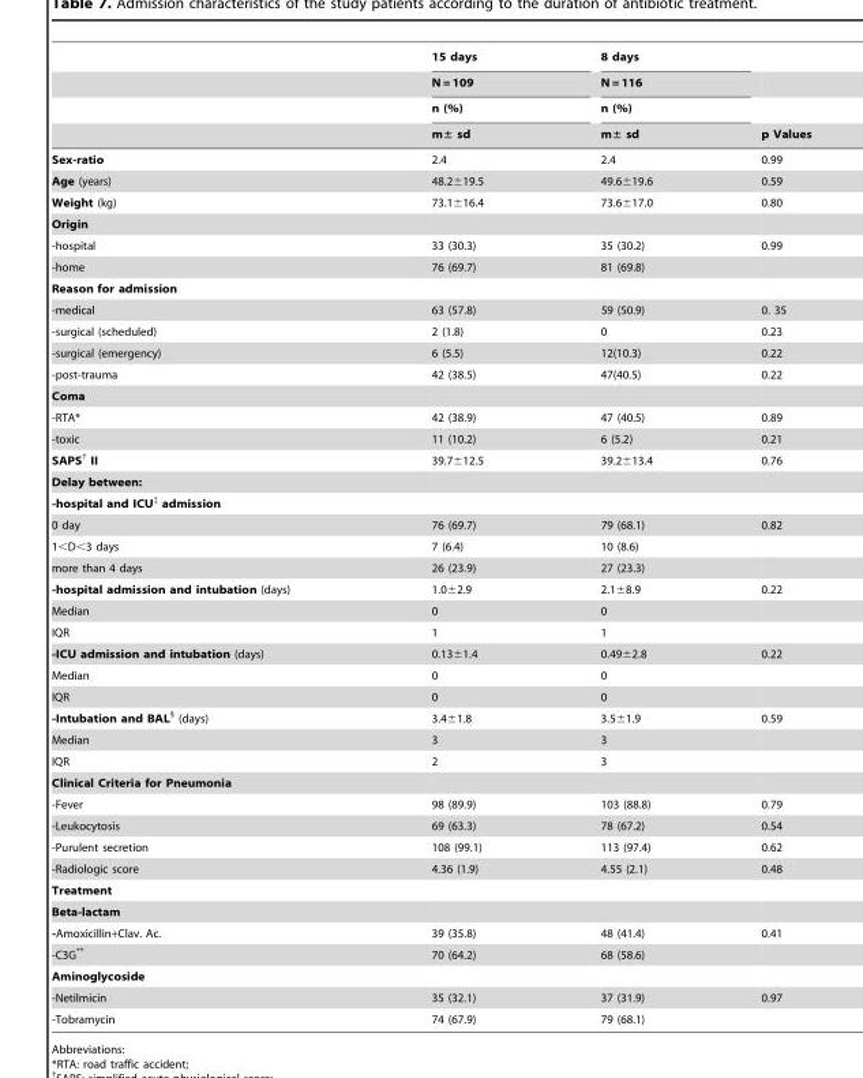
<table><thead><tr><td rowspan="4"></td><td rowspan="4">15 days N = 109 n (%) m± sd</td><td rowspan="4">8 days N = 116 n (%) m± sd</td><td rowspan="4">p Values</td></tr><tr></tr><tr></tr><tr></tr></thead><tbody><tr><td>Sex-ratio</td><td>2.4</td><td>2.4</td><td>0.99</td></tr><tr><td>Age (years)</td><td>48.2±19.5</td><td>49.6±19.6</td><td>0.59</td></tr><tr><td>Weight (kg)</td><td>73.1±16.4</td><td>73.6±17.0</td><td>0.80</td></tr><tr><td colspan="4">Origin</td></tr><tr><td>-hospital</td><td>33 (30.3)</td><td>35 (30.2)</td><td>0.99</td></tr><tr><td>-home</td><td>76 (69.7)</td><td>81 (69.8)</td><td></td></tr><tr><td colspan="4">Reason for admission</td></tr><tr><td>-medical</td><td>63 (57.8)</td><td>59 (50.9)</td><td>0. 35</td></tr><tr><td>-surgical (scheduled)</td><td>2 (1.8)</td><td>0</td><td>0.23</td></tr><tr><td>-surgical (emergency)</td><td>6 (5.5)</td><td>12(10.3)</td><td>0.22</td></tr><tr><td>-post-trauma</td><td>42 (38.5)</td><td>47(40.5)</td><td>0.22</td></tr><tr><td colspan="4">Coma</td></tr><tr><td>-RTA*</td><td>42 (38.9)</td><td>47 (40.5)</td><td>0.89</td></tr><tr><td>-toxic</td><td>11 (10.2)</td><td>6 (5.2)</td><td>0.21</td></tr><tr><td>SAPS† II</td><td>39.7±12.5</td><td>39.2±13.4</td><td>0.76</td></tr><tr><td colspan="4">Delay between:</td></tr><tr><td colspan="4">-hospital and ICU‡ admission</td></tr><tr><td>0 day</td><td>76 (69.7)</td><td>79 (68.1)</td><td>0.82</td></tr><tr><td>1&lt;D&lt;3 days</td><td>7 (6.4)</td><td>10 (8.6)</td><td></td></tr><tr><td>more than 4 days</td><td>26 (23.9)</td><td>27 (23.3)</td><td></td></tr><tr><td>-hospital admission and intubation (days)</td><td>1.0±2.9</td><td>2.1±8.9</td><td>0.22</td></tr><tr><td>Median</td><td>0</td><td>0</td><td></td></tr><tr><td>IQR</td><td>1</td><td>1</td><td></td></tr><tr><td>-ICU admission and intubation (days)</td><td>0.13±1.4</td><td>0.49±2.8</td><td>0.22</td></tr><tr><td>Median</td><td>0</td><td>0</td><td></td></tr><tr><td>IQR</td><td>0</td><td>0</td><td></td></tr><tr><td>-Intubation and BAL§ (days)</td><td>3.4±1.8</td><td>3.5±1.9</td><td>0.59</td></tr><tr><td>Median</td><td>3</td><td>3</td><td></td></tr><tr><td>IQR</td><td>2</td><td>3</td><td></td></tr><tr><td colspan="4">Clinical Criteria for Pneumonia</td></tr><tr><td>-Fever</td><td>98 (89.9)</td><td>103 (88.8)</td><td>0.79</td></tr><tr><td>-Leukocytosis</td><td>69 (63.3)</td><td>78 (67.2)</td><td>0.54</td></tr><tr><td>-Purulent secretion</td><td>108 (99.1)</td><td>113 (97.4)</td><td>0.62</td></tr><tr><td>-Radiologic score</td><td>4.36 (1.9)</td><td>4.55 (2.1)</td><td>0.48</td></tr><tr><td colspan="4">Treatment</td></tr><tr><td colspan="4">Beta-lactam</td></tr><tr><td>-Amoxicillin+Clav. Ac.</td><td>39 (35.8)</td><td>48 (41.4)</td><td>0.41</td></tr><tr><td>-C3G**</td><td>70 (64.2)</td><td>68 (58.6)</td><td></td></tr><tr><td colspan="4">Aminoglycoside</td></tr><tr><td>-Netilmicin</td><td>35 (32.1)</td><td>37 (31.9)</td><td>0.97</td></tr><tr><td>-Tobramycin</td><td>74 (67.9)</td><td>79 (68.1)</td><td></td></tr></tbody></table>